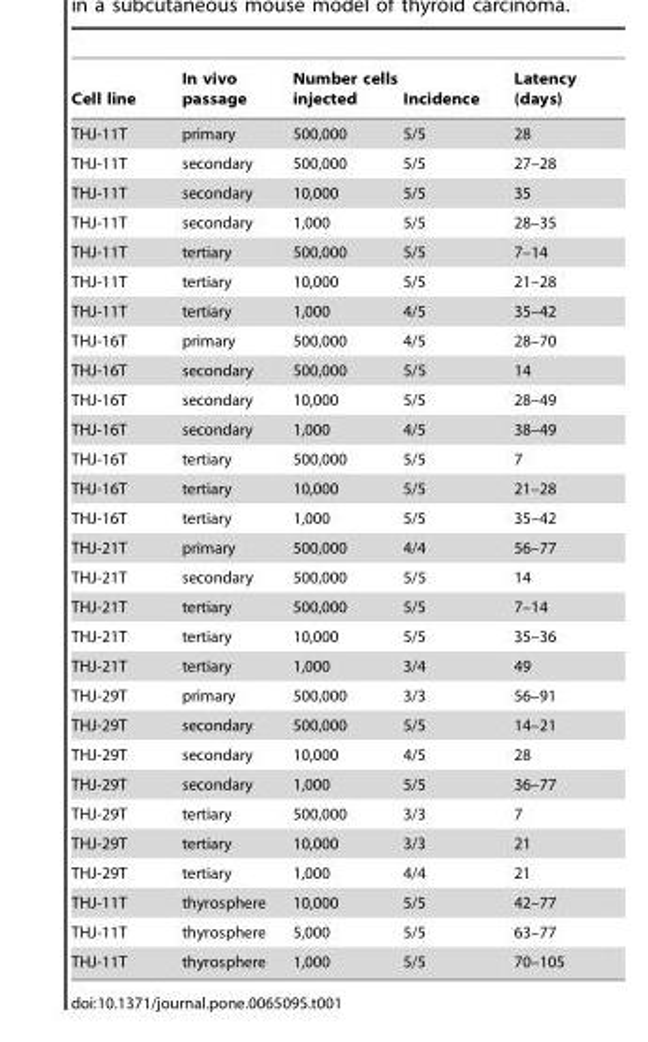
<table><thead><tr><td>Cell line</td><td>In vivo passage</td><td>Number cells injected</td><td>Incidence</td><td>Latency (days)</td></tr></thead><tbody><tr><td>THJ-11T</td><td>primary</td><td>500,000</td><td>5/5</td><td>28</td></tr><tr><td>THJ-11T</td><td>secondary</td><td>500,000</td><td>5/5</td><td>27–28</td></tr><tr><td>THJ-11T</td><td>secondary</td><td>10,000</td><td>5/5</td><td>35</td></tr><tr><td>THJ-11T</td><td>secondary</td><td>1,000</td><td>5/5</td><td>28–35</td></tr><tr><td>THJ-11T</td><td>tertiary</td><td>500,000</td><td>5/5</td><td>7–14</td></tr><tr><td>THJ-11T</td><td>tertiary</td><td>10,000</td><td>5/5</td><td>21–28</td></tr><tr><td>THJ-11T</td><td>tertiary</td><td>1,000</td><td>4/5</td><td>35–42</td></tr><tr><td>THJ-16T</td><td>primary</td><td>500,000</td><td>4/5</td><td>28–70</td></tr><tr><td>THJ-16T</td><td>secondary</td><td>500,000</td><td>5/5</td><td>14</td></tr><tr><td>THJ-16T</td><td>secondary</td><td>10,000</td><td>5/5</td><td>28–49</td></tr><tr><td>THJ-16T</td><td>secondary</td><td>1,000</td><td>4/5</td><td>38–49</td></tr><tr><td>THJ-16T</td><td>tertiary</td><td>500,000</td><td>5/5</td><td>7</td></tr><tr><td>THJ-16T</td><td>tertiary</td><td>10,000</td><td>5/5</td><td>21–28</td></tr><tr><td>THJ-16T</td><td>tertiary</td><td>1,000</td><td>5/5</td><td>35–42</td></tr><tr><td>THJ-21T</td><td>primary</td><td>500,000</td><td>4/4</td><td>56–77</td></tr><tr><td>THJ-21T</td><td>secondary</td><td>500,000</td><td>5/5</td><td>14</td></tr><tr><td>THJ-21T</td><td>tertiary</td><td>500,000</td><td>5/5</td><td>7–14</td></tr><tr><td>THJ-21T</td><td>tertiary</td><td>10,000</td><td>5/5</td><td>35–36</td></tr><tr><td>THJ-21T</td><td>tertiary</td><td>1,000</td><td>3/4</td><td>49</td></tr><tr><td>THJ-29T</td><td>primary</td><td>500,000</td><td>3/3</td><td>56–91</td></tr><tr><td>THJ-29T</td><td>secondary</td><td>500,000</td><td>5/5</td><td>14–21</td></tr><tr><td>THJ-29T</td><td>secondary</td><td>10,000</td><td>4/5</td><td>28</td></tr><tr><td>THJ-29T</td><td>secondary</td><td>1,000</td><td>5/5</td><td>36–77</td></tr><tr><td>THJ-29T</td><td>tertiary</td><td>500,000</td><td>3/3</td><td>7</td></tr><tr><td>THJ-29T</td><td>tertiary</td><td>10,000</td><td>3/3</td><td>21</td></tr><tr><td>THJ-29T</td><td>tertiary</td><td>1,000</td><td>4/4</td><td>21</td></tr><tr><td>THJ-11T</td><td>thyrosphere</td><td>10,000</td><td>5/5</td><td>42–77</td></tr><tr><td>THJ-11T</td><td>thyrosphere</td><td>5,000</td><td>5/5</td><td>63–77</td></tr><tr><td>THJ-11T</td><td>thyrosphere</td><td>1,000</td><td>5/5</td><td>70–105</td></tr></tbody></table>